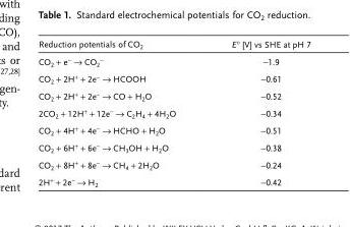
<table><thead><tr><td>Reduction potentials of CO<sub>2</sub></td><td>E° [V] vs SHE at pH 7</td></tr></thead><tbody><tr><td>CO<sub>2</sub> + e<sup>−</sup> → CO<sub>2</sub><sup>−</sup></td><td>−1.9</td></tr><tr><td>CO<sub>2</sub> + 2H<sup>+</sup> + 2e<sup>−</sup> → HCOOH</td><td>−0.61</td></tr><tr><td>CO<sub>2</sub> + 2H<sup>+</sup> + 2e<sup>−</sup> → CO + H<sub>2</sub>O</td><td>−0.52</td></tr><tr><td>2CO<sub>2</sub> + 12H<sup>+</sup> + 12e<sup>−</sup> → C<sub>2</sub>H<sub>4</sub> + 4H<sub>2</sub>O</td><td>−0.34</td></tr><tr><td>CO<sub>2</sub> + 4H<sup>+</sup> + 4e<sup>−</sup> → HCHO + H<sub>2</sub>O</td><td>−0.51</td></tr><tr><td>CO<sub>2</sub> + 6H<sup>+</sup> + 6e<sup>−</sup> → CH<sub>3</sub>OH + H<sub>2</sub>O</td><td>−0.38</td></tr><tr><td>CO<sub>2</sub> + 8H<sup>+</sup> + 8e<sup>−</sup> → CH<sub>4</sub> + 2H<sub>2</sub>O</td><td>−0.24</td></tr><tr><td>2H<sup>+</sup> + 2e<sup>–</sup> → H<sub>2</sub></td><td>−0.42</td></tr></tbody></table>